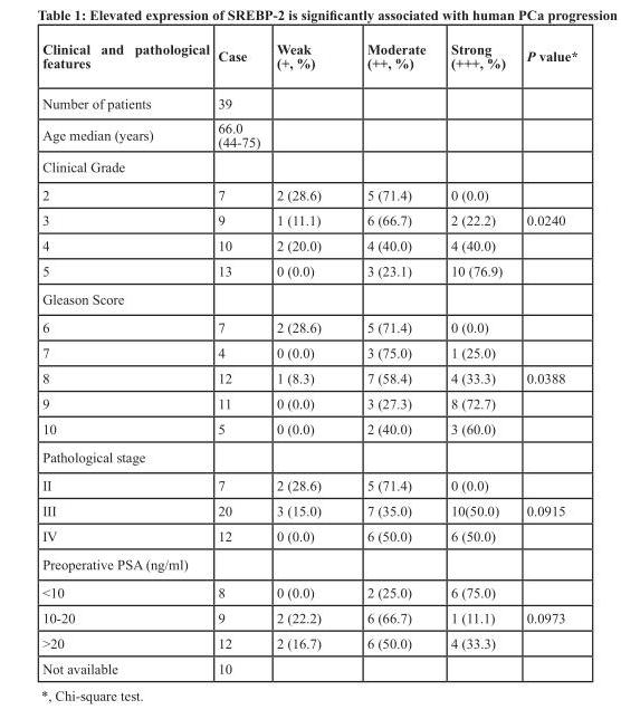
<table><thead><tr><td>Clinical and pathological features</td><td>Case</td><td>Weak (+, %)</td><td>Moderate (++, %)</td><td>Strong (+++, %)</td><td>P value*</td></tr></thead><tbody><tr><td>Number of patients</td><td>39</td><td></td><td></td><td></td><td></td></tr><tr><td>Age median (years)</td><td>66.0 (44-75)</td><td></td><td></td><td></td><td></td></tr><tr><td colspan="6">Clinical Grade</td></tr><tr><td>2</td><td>7</td><td>2 (28.6)</td><td>5 (71.4)</td><td>0 (0.0)</td><td></td></tr><tr><td>3</td><td>9</td><td>1 (11.1)</td><td>6 (66.7)</td><td>2 (22.2)</td><td>0.0240</td></tr><tr><td>4</td><td>10</td><td>2 (20.0)</td><td>4 (40.0)</td><td>4 (40.0)</td><td></td></tr><tr><td>5</td><td>13</td><td>0 (0.0)</td><td>3 (23.1)</td><td>10 (76.9)</td><td></td></tr><tr><td colspan="6">Gleason Score</td></tr><tr><td>6</td><td>7</td><td>2 (28.6)</td><td>5 (71.4)</td><td>0 (0.0)</td><td></td></tr><tr><td>7</td><td>4</td><td>0 (0.0)</td><td>3 (75.0)</td><td>1 (25.0)</td><td></td></tr><tr><td>8</td><td>12</td><td>1 (8.3)</td><td>7 (58.4)</td><td>4 (33.3)</td><td>0.0388</td></tr><tr><td>9</td><td>11</td><td>0 (0.0)</td><td>3 (27.3)</td><td>8 (72.7)</td><td></td></tr><tr><td>10</td><td>5</td><td>0 (0.0)</td><td>2 (40.0)</td><td>3 (60.0)</td><td></td></tr><tr><td colspan="6">Pathological stage</td></tr><tr><td>II</td><td>7</td><td>2 (28.6)</td><td>5 (71.4)</td><td>0 (0.0)</td><td></td></tr><tr><td>III</td><td>20</td><td>3 (15.0)</td><td>7 (35.0)</td><td>10(50.0)</td><td>0.0915</td></tr><tr><td>IV</td><td>12</td><td>0 (0.0)</td><td>6 (50.0)</td><td>6 (50.0)</td><td></td></tr><tr><td colspan="6">Preoperative PSA (ng/ml)</td></tr><tr><td>&lt;10</td><td>8</td><td>0 (0.0)</td><td>2 (25.0)</td><td>6 (75.0)</td><td></td></tr><tr><td>10-20</td><td>9</td><td>2 (22.2)</td><td>6 (66.7)</td><td>1 (11.1)</td><td>0.0973</td></tr><tr><td>&gt;20</td><td>12</td><td>2 (16.7)</td><td>6 (50.0)</td><td>4 (33.3)</td><td></td></tr><tr><td>Not available</td><td>10</td><td></td><td></td><td></td><td></td></tr></tbody></table>